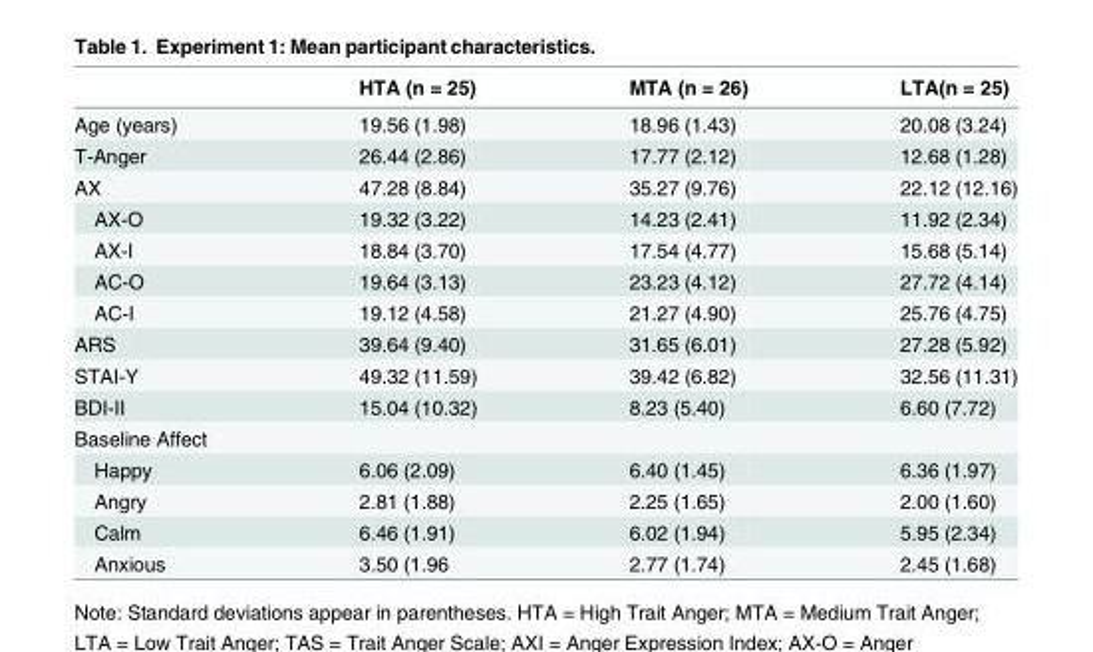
<table><thead><tr><td></td><td>HTA (n = 25)</td><td>MTA (n = 26)</td><td>LTA(n = 25)</td></tr></thead><tbody><tr><td>Age (years)</td><td>19.56 (1.98)</td><td>18.96 (1.43)</td><td>20.08 (3.24)</td></tr><tr><td>T-Anger</td><td>26.44 (2.86)</td><td>17.77 (2.12)</td><td>12.68 (1.28)</td></tr><tr><td>AX</td><td>47.28 (8.84)</td><td>35.27 (9.76)</td><td>22.12 (12.16)</td></tr><tr><td>AX-O</td><td>19.32 (3.22)</td><td>14.23 (2.41)</td><td>11.92 (2.34)</td></tr><tr><td>AX-I</td><td>18.84 (3.70)</td><td>17.54 (4.77)</td><td>15.68 (5.14)</td></tr><tr><td>AC-O</td><td>19.64 (3.13)</td><td>23.23 (4.12)</td><td>27.72 (4.14)</td></tr><tr><td>AC-I</td><td>19.12 (4.58)</td><td>21.27 (4.90)</td><td>25.76 (4.75)</td></tr><tr><td>ARS</td><td>39.64 (9.40)</td><td>31.65 (6.01)</td><td>27.28 (5.92)</td></tr><tr><td>STAI-Y</td><td>49.32 (11.59)</td><td>39.42 (6.82)</td><td>32.56 (11.31)</td></tr><tr><td>BDI-II</td><td>15.04 (10.32)</td><td>8.23 (5.40)</td><td>6.60 (7.72)</td></tr><tr><td colspan="4">Baseline Affect</td></tr><tr><td>Happy</td><td>6.06 (2.09)</td><td>6.40 (1.45)</td><td>6.36 (1.97)</td></tr><tr><td>Angry</td><td>2.81 (1.88)</td><td>2.25 (1.65)</td><td>2.00 (1.60)</td></tr><tr><td>Calm</td><td>6.46 (1.91)</td><td>6.02 (1.94)</td><td>5.95 (2.34)</td></tr><tr><td>Anxious</td><td>3.50 (1.96</td><td>2.77 (1.74)</td><td>2.45 (1.68)</td></tr></tbody></table>